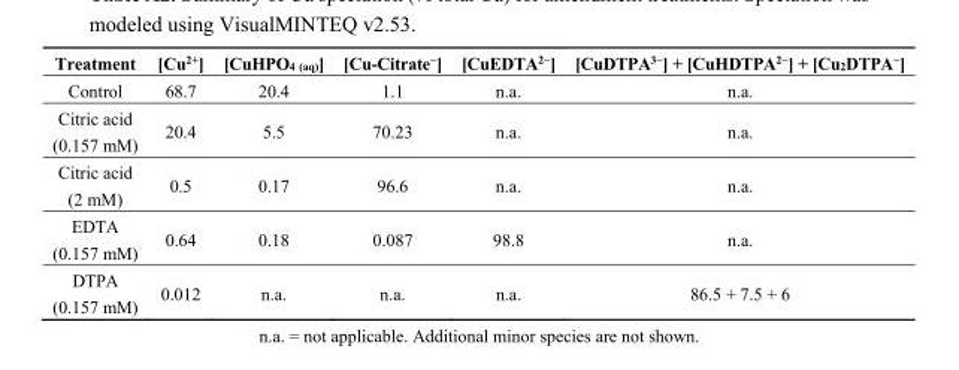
<table><thead><tr><td>Treatment</td><td>[Cu<sup>2+</sup>]</td><td>[CuHPO<sub>4 (aq)</sub>]</td><td>[Cu-Citrate<sup>−</sup>]</td><td>[CuEDTA<sup>2−</sup>]</td><td>[CuDTPA<sup>3−</sup>] + [CuHDTPA<sup>2−</sup>] + [Cu<sub>2</sub>DTPA<sup>−</sup>]</td></tr></thead><tbody><tr><td>Control</td><td>68.7</td><td>20.4</td><td>1.1</td><td>n.a.</td><td>n.a.</td></tr><tr><td>Citric acid (0.157 mM)</td><td>20.4</td><td>5.5</td><td>70.23</td><td>n.a.</td><td>n.a.</td></tr><tr><td>Citric acid (2 mM)</td><td>0.5</td><td>0.17</td><td>96.6</td><td>n.a.</td><td>n.a.</td></tr><tr><td>EDTA (0.157 mM)</td><td>0.64</td><td>0.18</td><td>0.087</td><td>98.8</td><td>n.a.</td></tr><tr><td>DTPA (0.157 mM)</td><td>0.012</td><td>n.a.</td><td>n.a.</td><td>n.a.</td><td>86.5 + 7.5 + 6</td></tr></tbody></table>